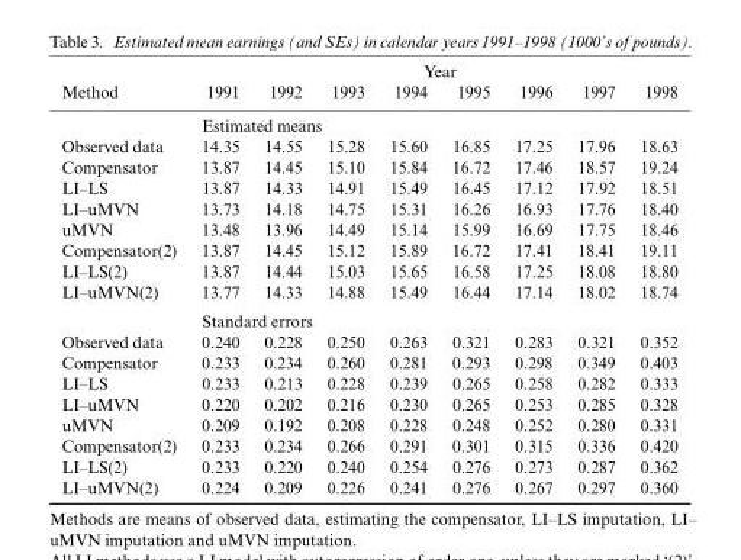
<table><thead><tr><td rowspan="2">Method</td><td colspan="8">Year</td></tr><tr><td>1991</td><td>1992</td><td>1993</td><td>1994</td><td>1995</td><td>1996</td><td>1997</td><td>1998</td></tr></thead><tbody><tr><td></td><td colspan="2">Estimated means</td><td colspan="6"></td></tr><tr><td>Observed data</td><td>14.35</td><td>14.55</td><td>15.28</td><td>15.60</td><td>16.85</td><td>17.25</td><td>17.96</td><td>18.63</td></tr><tr><td>Compensator</td><td>13.87</td><td>14.45</td><td>15.10</td><td>15.84</td><td>16.72</td><td>17.46</td><td>18.57</td><td>19.24</td></tr><tr><td>LI–LS</td><td>13.87</td><td>14.33</td><td>14.91</td><td>15.49</td><td>16.45</td><td>17.12</td><td>17.92</td><td>18.51</td></tr><tr><td>LI–uMVN</td><td>13.73</td><td>14.18</td><td>14.75</td><td>15.31</td><td>16.26</td><td>16.93</td><td>17.76</td><td>18.40</td></tr><tr><td>uMVN</td><td>13.48</td><td>13.96</td><td>14.49</td><td>15.14</td><td>15.99</td><td>16.69</td><td>17.75</td><td>18.46</td></tr><tr><td>Compensator(2)</td><td>13.87</td><td>14.45</td><td>15.12</td><td>15.89</td><td>16.72</td><td>17.41</td><td>18.41</td><td>19.11</td></tr><tr><td>LI–LS(2)</td><td>13.87</td><td>14.44</td><td>15.03</td><td>15.65</td><td>16.58</td><td>17.25</td><td>18.08</td><td>18.80</td></tr><tr><td rowspan="2">LI–uMVN(2)</td><td>13.77</td><td>14.33</td><td>14.88</td><td>15.49</td><td>16.44</td><td>17.14</td><td>18.02</td><td>18.74</td></tr><tr><td colspan="2">Standard errors</td><td colspan="6"></td></tr><tr><td>Observed data</td><td>0.240</td><td>0.228</td><td>0.250</td><td>0.263</td><td>0.321</td><td>0.283</td><td>0.321</td><td>0.352</td></tr><tr><td>Compensator</td><td>0.233</td><td>0.234</td><td>0.260</td><td>0.281</td><td>0.293</td><td>0.298</td><td>0.349</td><td>0.403</td></tr><tr><td>LI–LS</td><td>0.233</td><td>0.213</td><td>0.228</td><td>0.239</td><td>0.265</td><td>0.258</td><td>0.282</td><td>0.333</td></tr><tr><td>LI–uMVN</td><td>0.220</td><td>0.202</td><td>0.216</td><td>0.230</td><td>0.265</td><td>0.253</td><td>0.285</td><td>0.328</td></tr><tr><td>uMVN</td><td>0.209</td><td>0.192</td><td>0.208</td><td>0.228</td><td>0.248</td><td>0.252</td><td>0.280</td><td>0.331</td></tr><tr><td>Compensator(2)</td><td>0.233</td><td>0.234</td><td>0.266</td><td>0.291</td><td>0.301</td><td>0.315</td><td>0.336</td><td>0.420</td></tr><tr><td>LI–LS(2)</td><td>0.233</td><td>0.220</td><td>0.240</td><td>0.254</td><td>0.276</td><td>0.273</td><td>0.287</td><td>0.362</td></tr><tr><td>LI–uMVN(2)</td><td>0.224</td><td>0.209</td><td>0.226</td><td>0.241</td><td>0.276</td><td>0.267</td><td>0.297</td><td>0.360</td></tr></tbody></table>